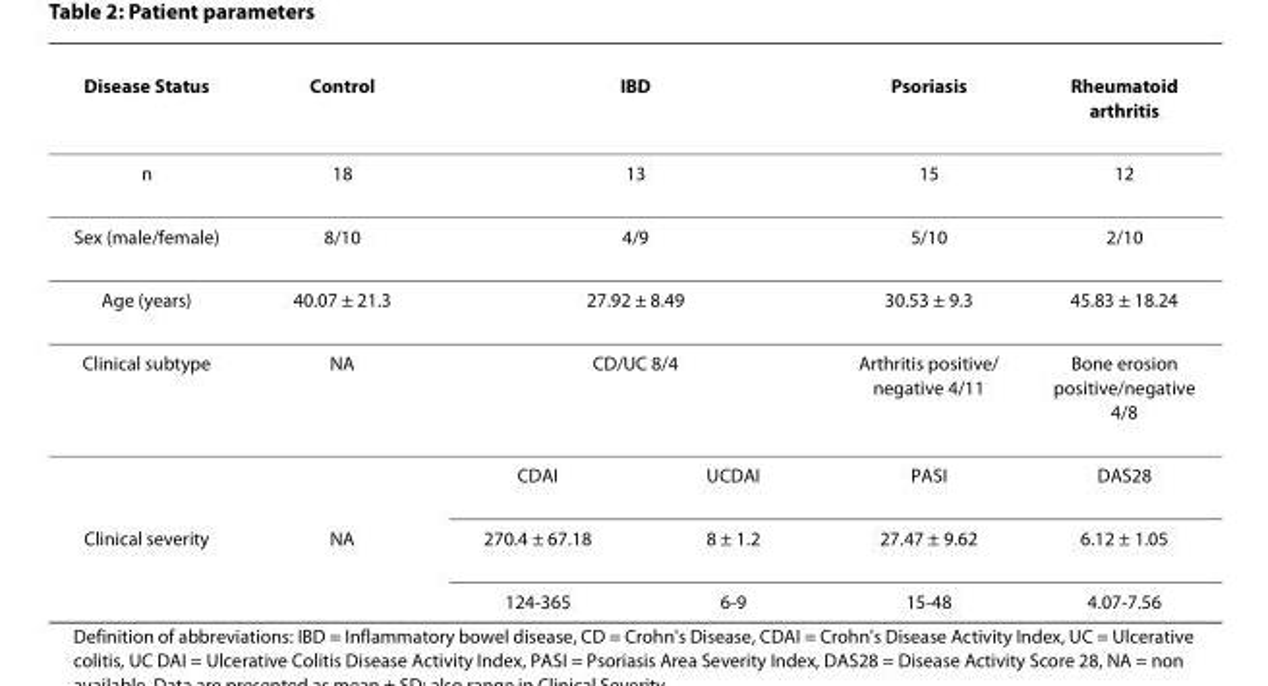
<table><thead><tr><td>Disease Status</td><td>Control</td><td colspan="2">IBD</td><td>Psoriasis</td><td>Rheumatoid arthritis</td></tr></thead><tbody><tr><td>n</td><td>18</td><td colspan="2">13</td><td>15</td><td>12</td></tr><tr><td>Sex (male/female)</td><td>8/10</td><td colspan="2">4/9</td><td>5/10</td><td>2/10</td></tr><tr><td>Age (years)</td><td>40.07 ± 21.3</td><td colspan="2">27.92 ± 8.49</td><td>30.53 ± 9.3</td><td>45.83 ± 18.24</td></tr><tr><td rowspan="2">Clinical subtype</td><td>NA</td><td colspan="2">CD/UC 8/4</td><td>Arthritis positive/ negative 4/11</td><td>Bone erosion positive/negative 4/8</td></tr><tr><td></td><td>CDAI</td><td>UCDAI</td><td>PASI</td><td>DAS28</td></tr><tr><td rowspan="2">Clinical severity</td><td>NA</td><td>270.4 ± 67.18</td><td>8 ± 1.2</td><td>27.47 ± 9.62</td><td>6.12 ± 1.05</td></tr><tr><td></td><td>124-365</td><td>6-9</td><td>15-48</td><td>4.07-7.56</td></tr></tbody></table>